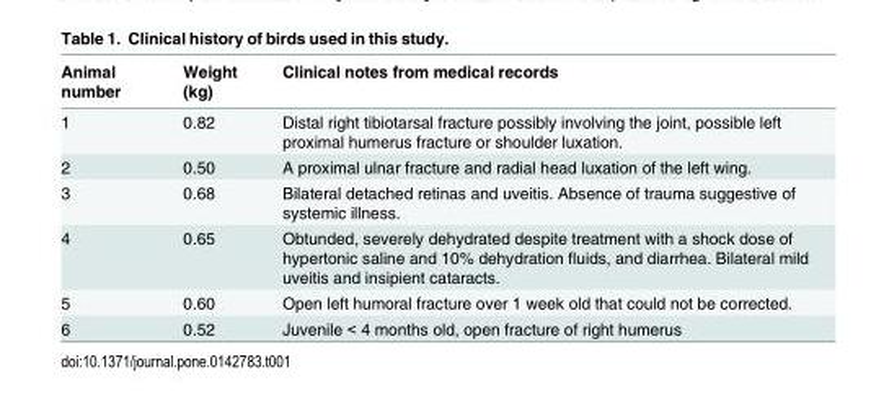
<table><thead><tr><td>Animal number</td><td>Weight (kg)</td><td>Clinical notes from medical records</td></tr></thead><tbody><tr><td>1</td><td>0.82</td><td>Distal right tibiotarsal fracture possibly involving the joint, possible left proximal humerus fracture or shoulder luxation.</td></tr><tr><td>2</td><td>0.50</td><td>A proximal ulnar fracture and radial head luxation of the left wing.</td></tr><tr><td>3</td><td>0.68</td><td>Bilateral detached retinas and uveitis. Absence of trauma suggestive of systemic illness.</td></tr><tr><td>4</td><td>0.65</td><td>Obtunded, severely dehydrated despite treatment with a shock dose of hypertonic saline and 10% dehydration fluids, and diarrhea. Bilateral mild uveitis and insipient cataracts.</td></tr><tr><td>5</td><td>0.60</td><td>Open left humoral fracture over 1 week old that could not be corrected.</td></tr><tr><td>6</td><td>0.52</td><td>Juvenile &lt; 4 months old, open fracture of right humerus</td></tr></tbody></table>